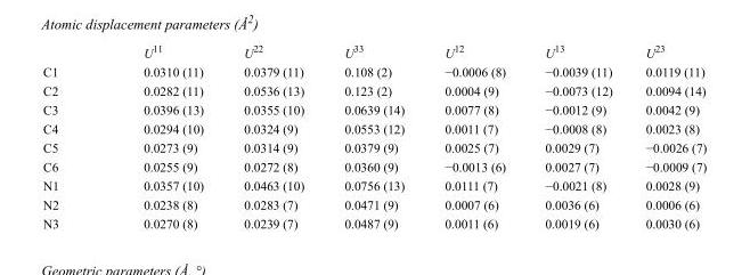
<table><thead><tr><td></td><td>U<sup>11</sup></td><td>U<sup>22</sup></td><td>U<sup>33</sup></td><td>U<sup>12</sup></td><td>U<sup>13</sup></td><td>U<sup>23</sup></td></tr></thead><tbody><tr><td>C1</td><td>0.0310 (11)</td><td>0.0379 (11)</td><td>0.108 (2)</td><td>−0.0006 (8)</td><td>−0.0039 (11)</td><td>0.0119 (11)</td></tr><tr><td>C2</td><td>0.0282 (11)</td><td>0.0536 (13)</td><td>0.123 (2)</td><td>0.0004 (9)</td><td>−0.0073 (12)</td><td>0.0094 (14)</td></tr><tr><td>C3</td><td>0.0396 (13)</td><td>0.0355 (10)</td><td>0.0639 (14)</td><td>0.0077 (8)</td><td>−0.0012 (9)</td><td>0.0042 (9)</td></tr><tr><td>C4</td><td>0.0294 (10)</td><td>0.0324 (9)</td><td>0.0553 (12)</td><td>0.0011 (7)</td><td>−0.0008 (8)</td><td>0.0023 (8)</td></tr><tr><td>C5</td><td>0.0273 (9)</td><td>0.0314 (9)</td><td>0.0379 (9)</td><td>0.0025 (7)</td><td>0.0029 (7)</td><td>−0.0026 (7)</td></tr><tr><td>C6</td><td>0.0255 (9)</td><td>0.0272 (8)</td><td>0.0360 (9)</td><td>−0.0013 (6)</td><td>0.0027 (7)</td><td>−0.0009 (7)</td></tr><tr><td>N1</td><td>0.0357 (10)</td><td>0.0463 (10)</td><td>0.0756 (13)</td><td>0.0111 (7)</td><td>−0.0021 (8)</td><td>0.0028 (9)</td></tr><tr><td>N2</td><td>0.0238 (8)</td><td>0.0283 (7)</td><td>0.0471 (9)</td><td>0.0007 (6)</td><td>0.0036 (6)</td><td>0.0006 (6)</td></tr><tr><td>N3</td><td>0.0270 (8)</td><td>0.0239 (7)</td><td>0.0487 (9)</td><td>0.0011 (6)</td><td>0.0019 (6)</td><td>0.0030 (6)</td></tr></tbody></table>